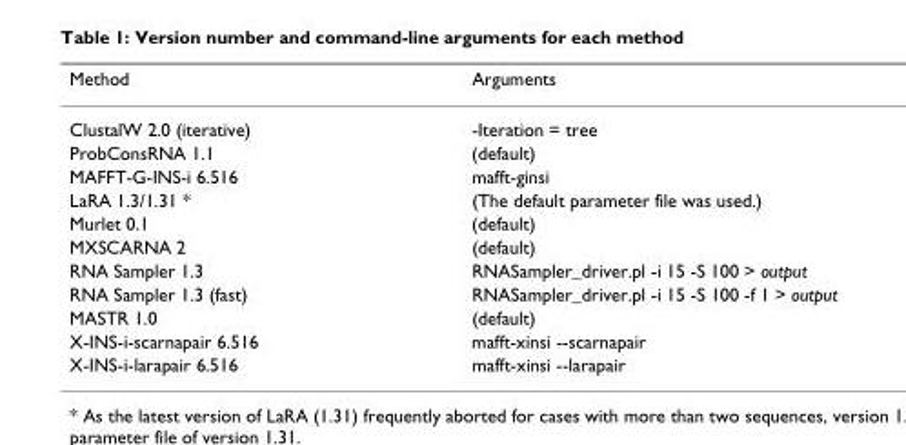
<table><thead><tr><td>Method</td><td>Arguments</td></tr></thead><tbody><tr><td>ClustalW 2.0 (iterative)</td><td>-Iteration = tree</td></tr><tr><td>ProbConsRNA 1.1</td><td>(default)</td></tr><tr><td>MAFFT-G-INS-i 6.516</td><td>mafft-ginsi</td></tr><tr><td>LaRA 1.3/1.31 *</td><td>(The default parameter file was used.)</td></tr><tr><td>Murlet 0.1</td><td>(default)</td></tr><tr><td>MXSCARNA 2</td><td>(default)</td></tr><tr><td>RNA Sampler 1.3</td><td>RNASampler_driver.pl -i 15 -S 100 &gt; output</td></tr><tr><td>RNA Sampler 1.3 (fast)</td><td>RNASampler_driver.pl -i 15 -S 100 -f 1 &gt; output</td></tr><tr><td>MASTR 1.0</td><td>(default)</td></tr><tr><td>X-INS-i-scarnapair 6.516</td><td>mafft-xinsi --scarnapair</td></tr><tr><td>X-INS-i-larapair 6.516</td><td>mafft-xinsi --larapair</td></tr></tbody></table>